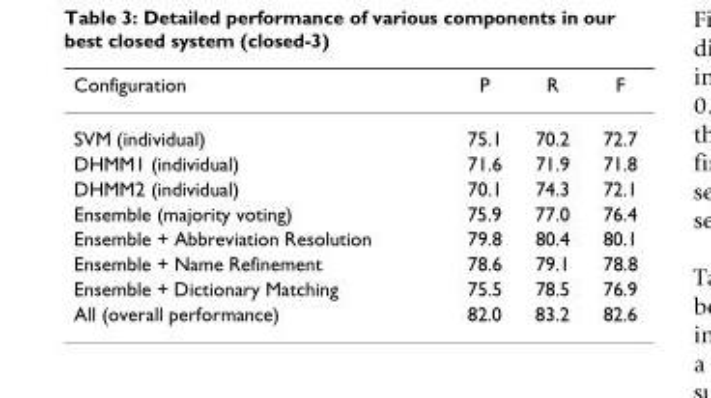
<table><thead><tr><td>Configuration</td><td>P</td><td>R</td><td>F</td></tr></thead><tbody><tr><td>SVM (individual)</td><td>75.1</td><td>70.2</td><td>72.7</td></tr><tr><td>DHMM1 (individual)</td><td>71.6</td><td>71.9</td><td>71.8</td></tr><tr><td>DHMM2 (individual)</td><td>70.1</td><td>74.3</td><td>72.1</td></tr><tr><td>Ensemble (majority voting)</td><td>75.9</td><td>77.0</td><td>76.4</td></tr><tr><td>Ensemble + Abbreviation Resolution</td><td>79.8</td><td>80.4</td><td>80.1</td></tr><tr><td>Ensemble + Name Refinement</td><td>78.6</td><td>79.1</td><td>78.8</td></tr><tr><td>Ensemble + Dictionary Matching</td><td>75.5</td><td>78.5</td><td>76.9</td></tr><tr><td>All (overall performance)</td><td>82.0</td><td>83.2</td><td>82.6</td></tr></tbody></table>